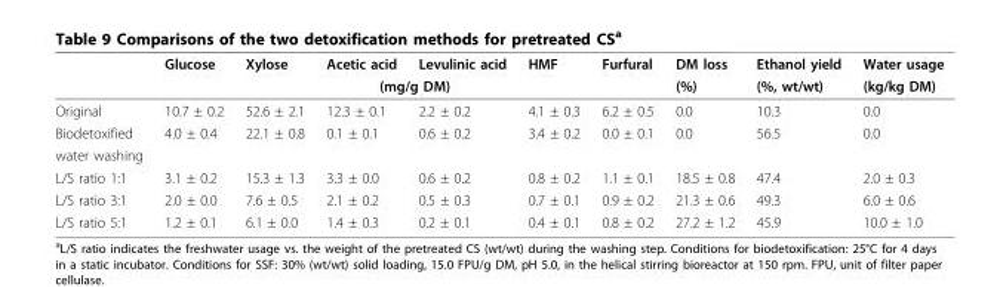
<table><thead><tr><td rowspan="2"></td><td>Glucose</td><td>Xylose</td><td>Acetic acid</td><td>Levulinic acid</td><td>HMF</td><td>Furfural</td><td rowspan="2">DM loss (%)</td><td rowspan="2">Ethanol yield (%, wt/wt)</td><td rowspan="2">Water usage (kg/kg DM)</td></tr><tr><td colspan="6">(mg/g DM)</td></tr></thead><tbody><tr><td>Original</td><td>10.7 ± 0.2</td><td>52.6 ± 2.1</td><td>12.3 ± 0.1</td><td>2.2 ± 0.2</td><td>4.1 ± 0.3</td><td>6.2 ± 0.5</td><td>0.0</td><td>10.3</td><td>0.0</td></tr><tr><td>Biodetoxified</td><td>4.0 ± 0.4</td><td>22.1 ± 0.8</td><td>0.1 ± 0.1</td><td>0.6 ± 0.2</td><td>3.4 ± 0.2</td><td>0.0 ± 0.1</td><td>0.0</td><td>56.5</td><td>0.0</td></tr><tr><td colspan="10">water washing</td></tr><tr><td>L/S ratio 1:1</td><td>3.1 ± 0.2</td><td>15.3 ± 1.3</td><td>3.3 ± 0.0</td><td>0.6 ± 0.2</td><td>0.8 ± 0.2</td><td>1.1 ± 0.1</td><td>18.5 ± 0.8</td><td>47.4</td><td>2.0 ± 0.3</td></tr><tr><td>L/S ratio 3:1</td><td>2.0 ± 0.0</td><td>7.6 ± 0.5</td><td>2.1 ± 0.2</td><td>0.5 ± 0.3</td><td>0.7 ± 0.1</td><td>0.9 ± 0.2</td><td>21.3 ± 0.6</td><td>49.3</td><td>6.0 ± 0.6</td></tr><tr><td>L/S ratio 5:1</td><td>1.2 ± 0.1</td><td>6.1 ± 0.0</td><td>1.4 ± 0.3</td><td>0.2 ± 0.1</td><td>0.4 ± 0.1</td><td>0.8 ± 0.2</td><td>27.2 ± 1.2</td><td>45.9</td><td>10.0 ± 1.0</td></tr></tbody></table>